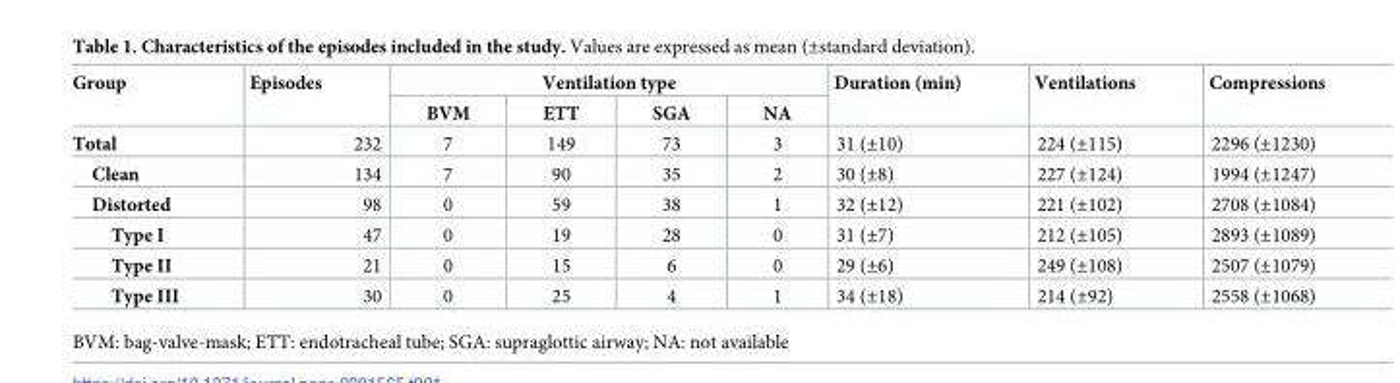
<table><thead><tr><td rowspan="2">Group</td><td rowspan="2">Episodes</td><td colspan="4">Ventilation type</td><td rowspan="2">Duration (min)</td><td rowspan="2">Ventilations</td><td rowspan="2">Compressions</td></tr><tr><td>BVM</td><td>ETT</td><td>SGA</td><td>NA</td></tr></thead><tbody><tr><td>Total</td><td>232</td><td>7</td><td>149</td><td>73</td><td>3</td><td>31 (±10)</td><td>224 (±115)</td><td>2296 (±1230)</td></tr><tr><td>Clean</td><td>134</td><td>7</td><td>90</td><td>35</td><td>2</td><td>30 (±8)</td><td>227 (±124)</td><td>1994 (±1247)</td></tr><tr><td>Distorted</td><td>98</td><td>0</td><td>59</td><td>38</td><td>1</td><td>32 (±12)</td><td>221 (±102)</td><td>2708 (±1084)</td></tr><tr><td>Type I</td><td>47</td><td>0</td><td>19</td><td>28</td><td>0</td><td>31 (±7)</td><td>212 (±105)</td><td>2893 (±1089)</td></tr><tr><td>Type II</td><td>21</td><td>0</td><td>15</td><td>6</td><td>0</td><td>29 (±6)</td><td>249 (±108)</td><td>2507 (±1079)</td></tr><tr><td>Type III</td><td>30</td><td>0</td><td>25</td><td>4</td><td>1</td><td>34 (±18)</td><td>214 (±92)</td><td>2558 (±1068)</td></tr></tbody></table>